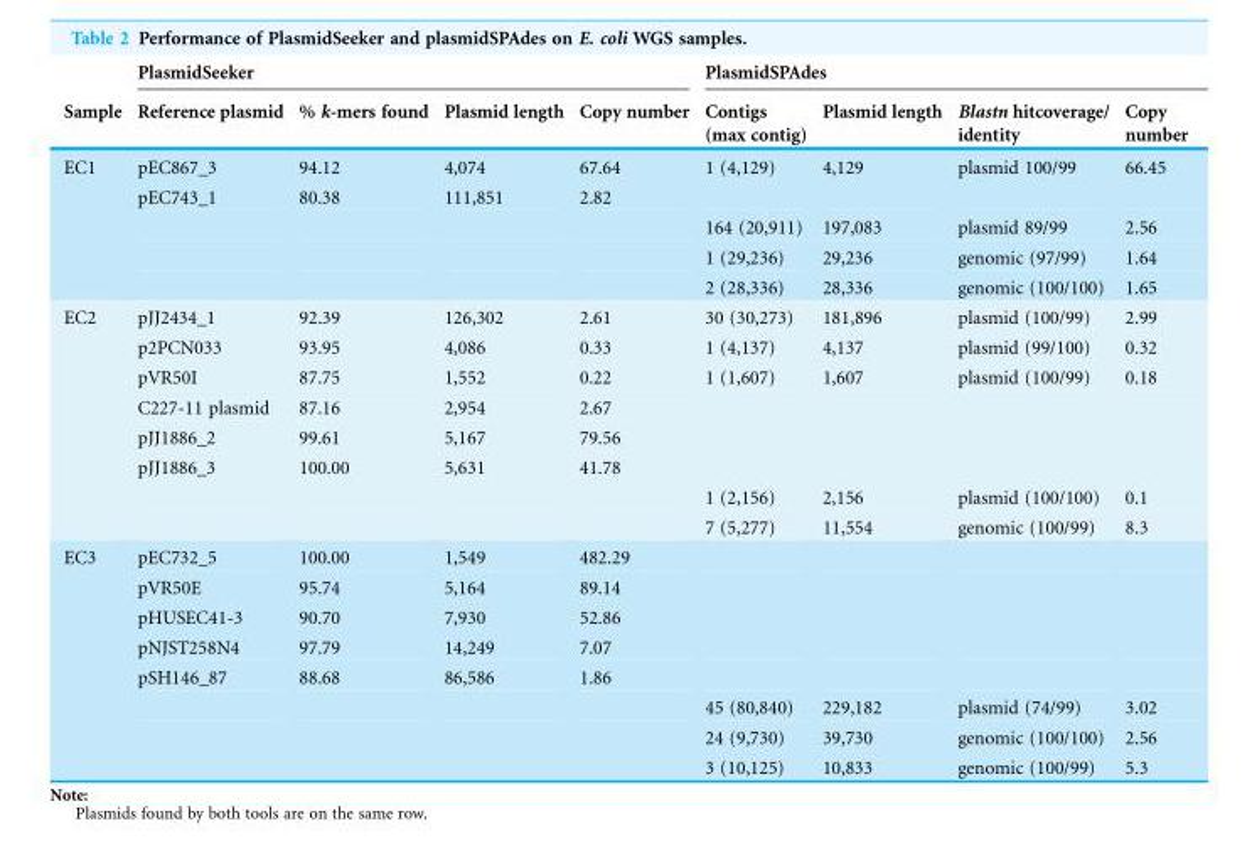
<table><thead><tr><td rowspan="2">Sample</td><td colspan="4">PlasmidSeeker</td><td colspan="4">PlasmidSPAdes</td></tr><tr><td>Reference plasmid</td><td>% k-mers found</td><td>Plasmid length</td><td>Copy number</td><td>Contigs (max contig)</td><td>Plasmid length</td><td>Blastn hitcoverage/ identity</td><td>Copy number</td></tr></thead><tbody><tr><td rowspan="5">EC1</td><td>pEC867_3</td><td>94.12</td><td>4,074</td><td>67.64</td><td>1 (4,129)</td><td>4,129</td><td>plasmid 100/99</td><td>66.45</td></tr><tr><td>pEC743_1</td><td>80.38</td><td>111,851</td><td>2.82</td><td></td><td></td><td></td><td></td></tr><tr><td></td><td></td><td></td><td></td><td>164 (20,911)</td><td>197,083</td><td>plasmid 89/99</td><td>2.56</td></tr><tr><td></td><td></td><td></td><td></td><td>1 (29,236)</td><td>29,236</td><td>genomic (97/99)</td><td>1.64</td></tr><tr><td></td><td></td><td></td><td></td><td>2 (28,336)</td><td>28,336</td><td>genomic (100/100)</td><td>1.65</td></tr><tr><td rowspan="8">EC2</td><td>pJJ2434_1</td><td>92.39</td><td>126,302</td><td>2.61</td><td>30 (30,273)</td><td>181,896</td><td>plasmid (100/99)</td><td>2.99</td></tr><tr><td>p2PCN033</td><td>93.95</td><td>4,086</td><td>0.33</td><td>1 (4,137)</td><td>4,137</td><td>plasmid (99/100)</td><td>0.32</td></tr><tr><td>pVR50I</td><td>87.75</td><td>1,552</td><td>0.22</td><td>1 (1,607)</td><td>1,607</td><td>plasmid (100/99)</td><td>0.18</td></tr><tr><td>C227-11 plasmid</td><td>87.16</td><td>2,954</td><td>2.67</td><td></td><td></td><td></td><td></td></tr><tr><td>pJJ1886_2</td><td>99.61</td><td>5,167</td><td>79.56</td><td></td><td></td><td></td><td></td></tr><tr><td>pJJ1886_3</td><td>100.00</td><td>5,631</td><td>41.78</td><td></td><td></td><td></td><td></td></tr><tr><td></td><td></td><td></td><td></td><td>1 (2,156)</td><td>2,156</td><td>plasmid (100/100)</td><td>0.1</td></tr><tr><td></td><td></td><td></td><td></td><td>7 (5,277)</td><td>11,554</td><td>genomic (100/99)</td><td>8.3</td></tr><tr><td rowspan="8">EC3</td><td>pEC732_5</td><td>100.00</td><td>1,549</td><td>482.29</td><td></td><td></td><td></td><td></td></tr><tr><td>pVR50E</td><td>95.74</td><td>5,164</td><td>89.14</td><td></td><td></td><td></td><td></td></tr><tr><td>pHUSEC41-3</td><td>90.70</td><td>7,930</td><td>52.86</td><td></td><td></td><td></td><td></td></tr><tr><td>pNJST258N4</td><td>97.79</td><td>14,249</td><td>7.07</td><td></td><td></td><td></td><td></td></tr><tr><td>pSH146_87</td><td>88.68</td><td>86,586</td><td>1.86</td><td></td><td></td><td></td><td></td></tr><tr><td></td><td></td><td></td><td></td><td>45 (80,840)</td><td>229,182</td><td>plasmid (74/99)</td><td>3.02</td></tr><tr><td></td><td></td><td></td><td></td><td>24 (9,730)</td><td>39,730</td><td>genomic (100/100)</td><td>2.56</td></tr><tr><td></td><td></td><td></td><td></td><td>3 (10,125)</td><td>10,833</td><td>genomic (100/99)</td><td>5.3</td></tr></tbody></table>